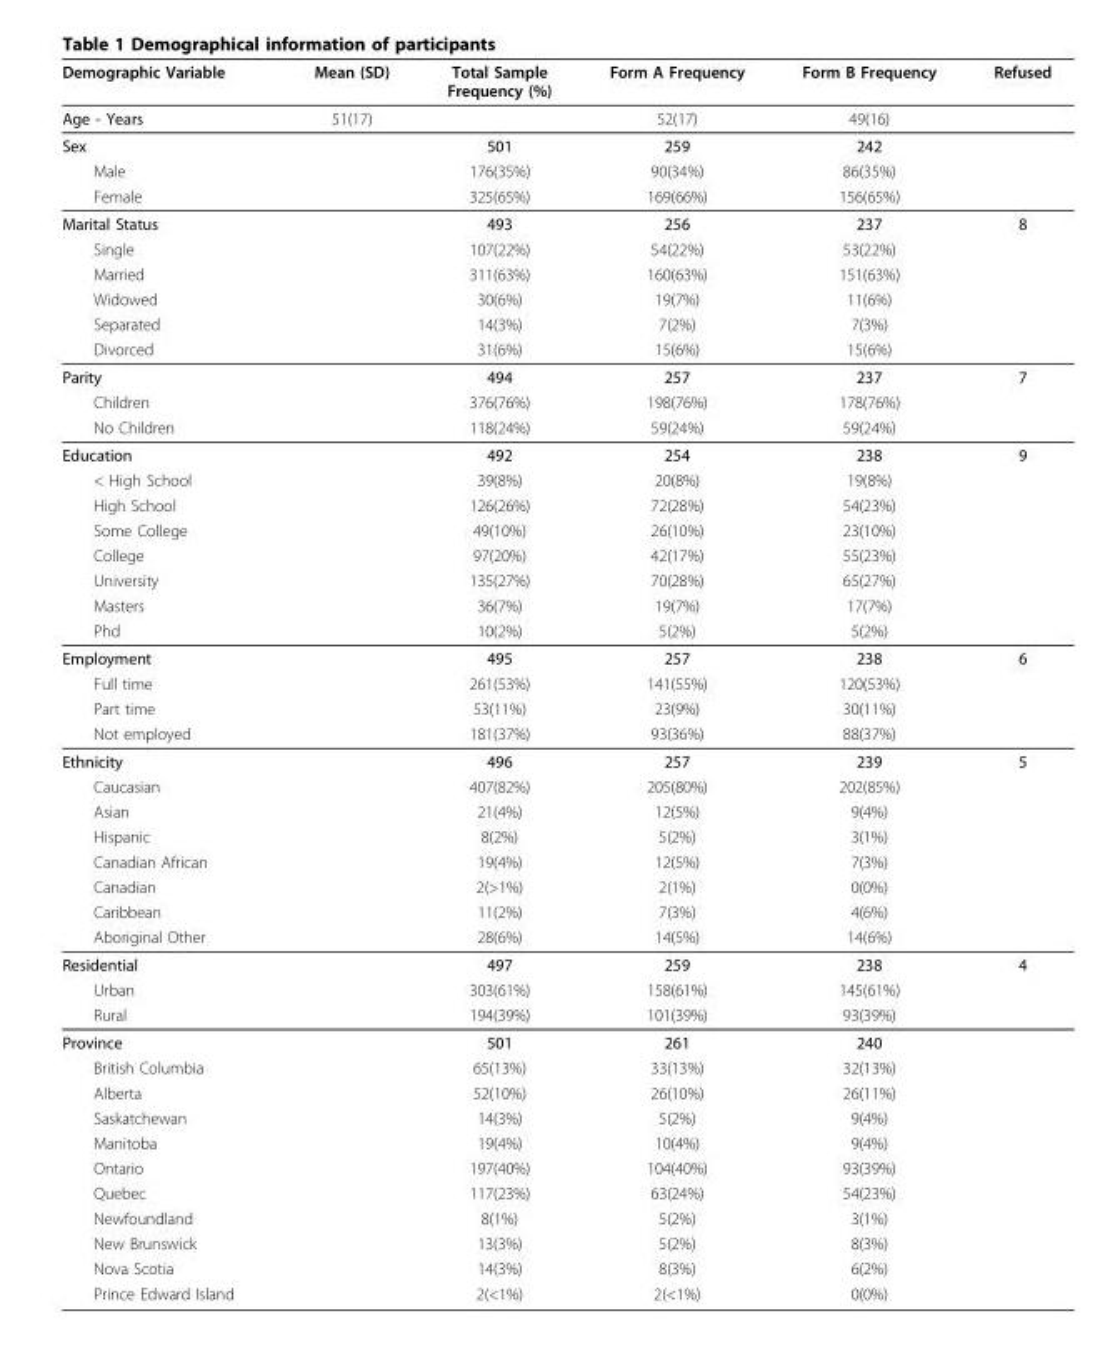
<table><thead><tr><td>Demographic Variable</td><td>Mean (SD)</td><td>Total Sample Frequency (%)</td><td>Form A Frequency</td><td>Form B Frequency</td><td>Refused</td></tr></thead><tbody><tr><td>Age - Years</td><td>51(17)</td><td></td><td>52(17)</td><td>49(16)</td><td></td></tr><tr><td>Sex</td><td></td><td>501</td><td>259</td><td>242</td><td></td></tr><tr><td>Male</td><td></td><td>176(35%)</td><td>90(34%)</td><td>86(35%)</td><td></td></tr><tr><td>Female</td><td></td><td>325(65%)</td><td>169(66%)</td><td>156(65%)</td><td></td></tr><tr><td>Marital Status</td><td></td><td>493</td><td>256</td><td>237</td><td>8</td></tr><tr><td>Single</td><td></td><td>107(22%)</td><td>54(22%)</td><td>53(22%)</td><td></td></tr><tr><td>Married</td><td></td><td>311(63%)</td><td>160(63%)</td><td>151(63%)</td><td></td></tr><tr><td>Widowed</td><td></td><td>30(6%)</td><td>19(7%)</td><td>11(6%)</td><td></td></tr><tr><td>Separated</td><td></td><td>14(3%)</td><td>7(2%)</td><td>7(3%)</td><td></td></tr><tr><td>Divorced</td><td></td><td>31(6%)</td><td>15(6%)</td><td>15(6%)</td><td></td></tr><tr><td>Parity</td><td></td><td>494</td><td>257</td><td>237</td><td>7</td></tr><tr><td>Children</td><td></td><td>376(76%)</td><td>198(76%)</td><td>178(76%)</td><td></td></tr><tr><td>No Children</td><td></td><td>118(24%)</td><td>59(24%)</td><td>59(24%)</td><td></td></tr><tr><td>Education</td><td></td><td>492</td><td>254</td><td>238</td><td>9</td></tr><tr><td>&lt; High School</td><td></td><td>39(8%)</td><td>20(8%)</td><td>19(8%)</td><td></td></tr><tr><td>High School</td><td></td><td>126(26%)</td><td>72(28%)</td><td>54(23%)</td><td></td></tr><tr><td>Some College</td><td></td><td>49(10%)</td><td>26(10%)</td><td>23(10%)</td><td></td></tr><tr><td>College</td><td></td><td>97(20%)</td><td>42(17%)</td><td>55(23%)</td><td></td></tr><tr><td>University</td><td></td><td>135(27%)</td><td>70(28%)</td><td>65(27%)</td><td></td></tr><tr><td>Masters</td><td></td><td>36(7%)</td><td>19(7%)</td><td>17(7%)</td><td></td></tr><tr><td>Phd</td><td></td><td>10(2%)</td><td>5(2%)</td><td>5(2%)</td><td></td></tr><tr><td>Employment</td><td></td><td>495</td><td>257</td><td>238</td><td>6</td></tr><tr><td>Full time</td><td></td><td>261(53%)</td><td>141(55%)</td><td>120(53%)</td><td></td></tr><tr><td>Part time</td><td></td><td>53(11%)</td><td>23(9%)</td><td>30(11%)</td><td></td></tr><tr><td>Not employed</td><td></td><td>181(37%)</td><td>93(36%)</td><td>88(37%)</td><td></td></tr><tr><td>Ethnicity</td><td></td><td>496</td><td>257</td><td>239</td><td>5</td></tr><tr><td>Caucasian</td><td></td><td>407(82%)</td><td>205(80%)</td><td>202(85%)</td><td></td></tr><tr><td>Asian</td><td></td><td>21(4%)</td><td>12(5%)</td><td>9(4%)</td><td></td></tr><tr><td>Hispanic</td><td></td><td>8(2%)</td><td>5(2%)</td><td>3(1%)</td><td></td></tr><tr><td>Canadian African</td><td></td><td>19(4%)</td><td>12(5%)</td><td>7(3%)</td><td></td></tr><tr><td>Canadian</td><td></td><td>2(&gt;1%)</td><td>2(1%)</td><td>0(0%)</td><td></td></tr><tr><td>Caribbean</td><td></td><td>11(2%)</td><td>7(3%)</td><td>4(6%)</td><td></td></tr><tr><td>Aboriginal Other</td><td></td><td>28(6%)</td><td>14(5%)</td><td>14(6%)</td><td></td></tr><tr><td>Residential</td><td></td><td>497</td><td>259</td><td>238</td><td>4</td></tr><tr><td>Urban</td><td></td><td>303(61%)</td><td>158(61%)</td><td>145(61%)</td><td></td></tr><tr><td>Rural</td><td></td><td>194(39%)</td><td>101(39%)</td><td>93(39%)</td><td></td></tr><tr><td>Province</td><td></td><td>501</td><td>261</td><td>240</td><td></td></tr><tr><td>British Columbia</td><td></td><td>65(13%)</td><td>33(13%)</td><td>32(13%)</td><td></td></tr><tr><td>Alberta</td><td></td><td>52(10%)</td><td>26(10%)</td><td>26(11%)</td><td></td></tr><tr><td>Saskatchewan</td><td></td><td>14(3%)</td><td>5(2%)</td><td>9(4%)</td><td></td></tr><tr><td>Manitoba</td><td></td><td>19(4%)</td><td>10(4%)</td><td>9(4%)</td><td></td></tr><tr><td>Ontario</td><td></td><td>197(40%)</td><td>104(40%)</td><td>93(39%)</td><td></td></tr><tr><td>Quebec</td><td></td><td>117(23%)</td><td>63(24%)</td><td>54(23%)</td><td></td></tr><tr><td>Newfoundland</td><td></td><td>8(1%)</td><td>5(2%)</td><td>3(1%)</td><td></td></tr><tr><td>New Brunswick</td><td></td><td>13(3%)</td><td>5(2%)</td><td>8(3%)</td><td></td></tr><tr><td>Nova Scotia</td><td></td><td>14(3%)</td><td>8(3%)</td><td>6(2%)</td><td></td></tr><tr><td>Prince Edward Island</td><td></td><td>2(&lt;1%)</td><td>2(&lt;1%)</td><td>0(0%)</td><td></td></tr></tbody></table>